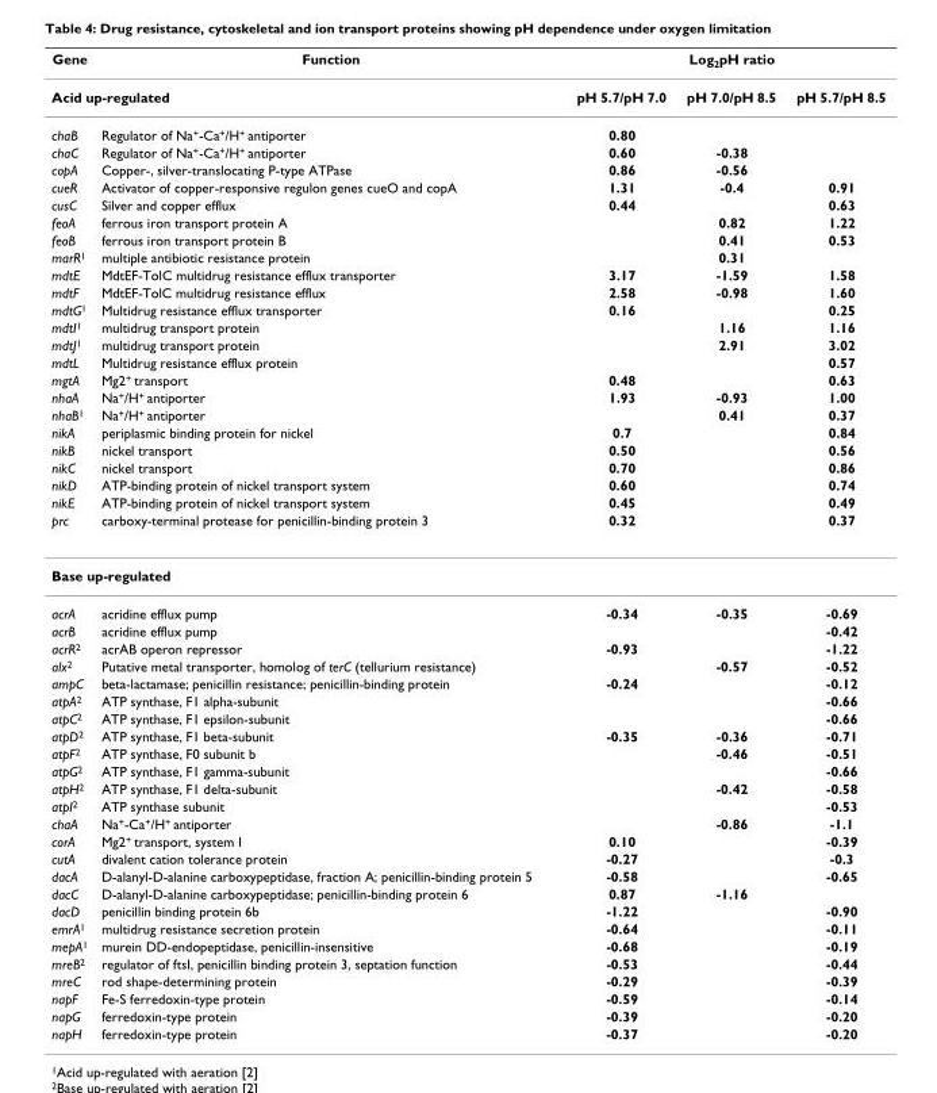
<table><thead><tr><td>Gene</td><td>Function</td><td colspan="3">Log2pH ratio</td></tr><tr><td colspan="2">Acid up-regulated</td><td>pH 5.7/pH 7.0</td><td>pH 7.0/pH 8.5</td><td>pH 5.7/pH 8.5</td></tr></thead><tbody><tr><td>chaB</td><td>Regulator of Na+-Ca+/H+ antiporter</td><td>0.80</td><td></td><td></td></tr><tr><td>chaC</td><td>Regulator of Na+-Ca+/H+ antiporter</td><td>0.60</td><td>-0.38</td><td></td></tr><tr><td>copA</td><td>Copper-, silver-translocating P-type ATPase</td><td>0.86</td><td>-0.56</td><td></td></tr><tr><td>cueR</td><td>Activator of copper-responsive regulon genes cueO and copA</td><td>1.31</td><td>-0.4</td><td>0.91</td></tr><tr><td>cusC</td><td>Silver and copper efflux</td><td>0.44</td><td></td><td>0.63</td></tr><tr><td>feoA</td><td>ferrous iron transport protein A</td><td></td><td>0.82</td><td>1.22</td></tr><tr><td>feoB</td><td>ferrous iron transport protein B</td><td></td><td>0.41</td><td>0.53</td></tr><tr><td>marR1</td><td>multiple antibiotic resistance protein</td><td></td><td>0.31</td><td></td></tr><tr><td>mdtE</td><td>MdtEF-TolC multidrug resistance efflux transporter</td><td>3.17</td><td>-1.59</td><td>1.58</td></tr><tr><td>mdtF</td><td>MdtEF-TolC multidrug resistance efflux</td><td>2.58</td><td>-0.98</td><td>1.60</td></tr><tr><td>mdtG1</td><td>Multidrug resistance efflux transporter</td><td>0.16</td><td></td><td>0.25</td></tr><tr><td>mdtI1</td><td>multidrug transport protein</td><td></td><td>1.16</td><td>1.16</td></tr><tr><td>mdtJ1</td><td>multidrug transport protein</td><td></td><td>2.91</td><td>3.02</td></tr><tr><td>mdtL</td><td>Multidrug resistance efflux protein</td><td></td><td></td><td>0.57</td></tr><tr><td>mgtA</td><td>Mg2+ transport</td><td>0.48</td><td></td><td>0.63</td></tr><tr><td>nhaA</td><td>Na+/H+ antiporter</td><td>1.93</td><td>-0.93</td><td>1.00</td></tr><tr><td>nhaB1</td><td>Na+/H+ antiporter</td><td></td><td>0.41</td><td>0.37</td></tr><tr><td>nikA</td><td>periplasmic binding protein for nickel</td><td>0.7</td><td></td><td>0.84</td></tr><tr><td>nikB</td><td>nickel transport</td><td>0.50</td><td></td><td>0.56</td></tr><tr><td>nikC</td><td>nickel transport</td><td>0.70</td><td></td><td>0.86</td></tr><tr><td>nikD</td><td>ATP-binding protein of nickel transport system</td><td>0.60</td><td></td><td>0.74</td></tr><tr><td>nikE</td><td>ATP-binding protein of nickel transport system</td><td>0.45</td><td></td><td>0.49</td></tr><tr><td>prc</td><td>carboxy-terminal protease for penicillin-binding protein 3</td><td>0.32</td><td></td><td>0.37</td></tr><tr><td colspan="5">Base up-regulated</td></tr><tr><td>acrA</td><td>acridine efflux pump</td><td>-0.34</td><td>-0.35</td><td>-0.69</td></tr><tr><td>acrB</td><td>acridine efflux pump</td><td></td><td></td><td>-0.42</td></tr><tr><td>acrR2</td><td>acrAB operon repressor</td><td>-0.93</td><td></td><td>-1.22</td></tr><tr><td>alx2</td><td>Putative metal transporter, homolog of terC (tellurium resistance)</td><td></td><td>-0.57</td><td>-0.52</td></tr><tr><td>ampC</td><td>beta-lactamase; penicillin resistance; penicillin-binding protein</td><td>-0.24</td><td></td><td>-0.12</td></tr><tr><td>atpA2</td><td>ATP synthase, F1 alpha-subunit</td><td></td><td></td><td>-0.66</td></tr><tr><td>atpC2</td><td>ATP synthase, F1 epsilon-subunit</td><td></td><td></td><td>-0.66</td></tr><tr><td>atpD2</td><td>ATP synthase, F1 beta-subunit</td><td>-0.35</td><td>-0.36</td><td>-0.71</td></tr><tr><td>atpF2</td><td>ATP synthase, F0 subunit b</td><td></td><td>-0.46</td><td>-0.51</td></tr><tr><td>atpG2</td><td>ATP synthase, F1 gamma-subunit</td><td></td><td></td><td>-0.66</td></tr><tr><td>atpH2</td><td>ATP synthase, F1 delta-subunit</td><td></td><td>-0.42</td><td>-0.58</td></tr><tr><td>atpI2</td><td>ATP synthase subunit</td><td></td><td></td><td>-0.53</td></tr><tr><td>chaA</td><td>Na+-Ca+/H+ antiporter</td><td></td><td>-0.86</td><td>-1.1</td></tr><tr><td>corA</td><td>Mg2+ transport, system I</td><td>0.10</td><td></td><td>-0.39</td></tr><tr><td>cutA</td><td>divalent cation tolerance protein</td><td>-0.27</td><td></td><td>-0.3</td></tr><tr><td>dacA</td><td>D-alanyl-D-alanine carboxypeptidase, fraction A; penicillin-binding protein 5</td><td>-0.58</td><td></td><td>-0.65</td></tr><tr><td>dacC</td><td>D-alanyl-D-alanine carboxypeptidase; penicillin-binding protein 6</td><td>0.87</td><td>-1.16</td><td></td></tr><tr><td>dacD</td><td>penicillin binding protein 6b</td><td>-1.22</td><td></td><td>-0.90</td></tr><tr><td>emrA1</td><td>multidrug resistance secretion protein</td><td>-0.64</td><td></td><td>-0.11</td></tr><tr><td>mepA1</td><td>murein DD-endopeptidase, penicillin-insensitive</td><td>-0.68</td><td></td><td>-0.19</td></tr><tr><td>mreB2</td><td>regulator of ftsI, penicillin binding protein 3, septation function</td><td>-0.53</td><td></td><td>-0.44</td></tr><tr><td>mreC</td><td>rod shape-determining protein</td><td>-0.29</td><td></td><td>-0.39</td></tr><tr><td>napF</td><td>Fe-S ferredoxin-type protein</td><td>-0.59</td><td></td><td>-0.14</td></tr><tr><td>napG</td><td>ferredoxin-type protein</td><td>-0.39</td><td></td><td>-0.20</td></tr><tr><td>napH</td><td>ferredoxin-type protein</td><td>-0.37</td><td></td><td>-0.20</td></tr></tbody></table>